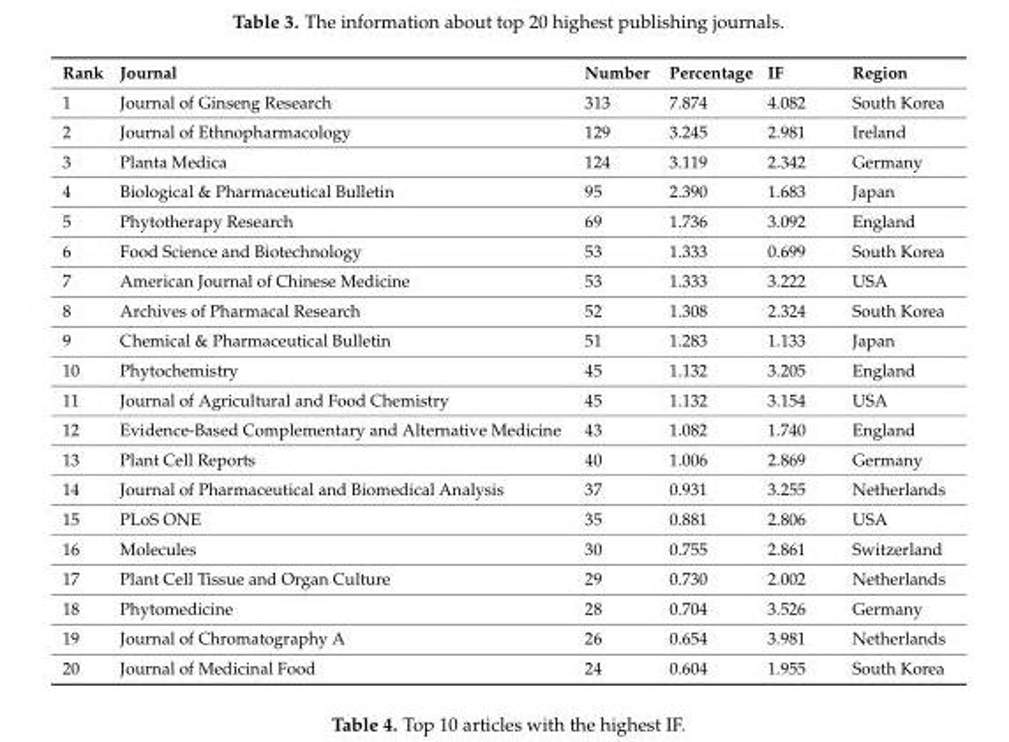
<table><thead><tr><td>Rank</td><td>Journal</td><td>Number</td><td>Percentage</td><td>IF</td><td>Region</td></tr></thead><tbody><tr><td>1</td><td>Journal of Ginseng Research</td><td>313</td><td>7.874</td><td>4.082</td><td>South Korea</td></tr><tr><td>2</td><td>Journal of Ethnopharmacology</td><td>129</td><td>3.245</td><td>2.981</td><td>Ireland</td></tr><tr><td>3</td><td>Planta Medica</td><td>124</td><td>3.119</td><td>2.342</td><td>Germany</td></tr><tr><td>4</td><td>Biological &amp; Pharmaceutical Bulletin</td><td>95</td><td>2.390</td><td>1.683</td><td>Japan</td></tr><tr><td>5</td><td>Phytotherapy Research</td><td>69</td><td>1.736</td><td>3.092</td><td>England</td></tr><tr><td>6</td><td>Food Science and Biotechnology</td><td>53</td><td>1.333</td><td>0.699</td><td>South Korea</td></tr><tr><td>7</td><td>American Journal of Chinese Medicine</td><td>53</td><td>1.333</td><td>3.222</td><td>USA</td></tr><tr><td>8</td><td>Archives of Pharmacal Research</td><td>52</td><td>1.308</td><td>2.324</td><td>South Korea</td></tr><tr><td>9</td><td>Chemical &amp; Pharmaceutical Bulletin</td><td>51</td><td>1.283</td><td>1.133</td><td>Japan</td></tr><tr><td>10</td><td>Phytochemistry</td><td>45</td><td>1.132</td><td>3.205</td><td>England</td></tr><tr><td>11</td><td>Journal of Agricultural and Food Chemistry</td><td>45</td><td>1.132</td><td>3.154</td><td>USA</td></tr><tr><td>12</td><td>Evidence-Based Complementary and Alternative Medicine</td><td>43</td><td>1.082</td><td>1.740</td><td>England</td></tr><tr><td>13</td><td>Plant Cell Reports</td><td>40</td><td>1.006</td><td>2.869</td><td>Germany</td></tr><tr><td>14</td><td>Journal of Pharmaceutical and Biomedical Analysis</td><td>37</td><td>0.931</td><td>3.255</td><td>Netherlands</td></tr><tr><td>15</td><td>PLoS ONE</td><td>35</td><td>0.881</td><td>2.806</td><td>USA</td></tr><tr><td>16</td><td>Molecules</td><td>30</td><td>0.755</td><td>2.861</td><td>Switzerland</td></tr><tr><td>17</td><td>Plant Cell Tissue and Organ Culture</td><td>29</td><td>0.730</td><td>2.002</td><td>Netherlands</td></tr><tr><td>18</td><td>Phytomedicine</td><td>28</td><td>0.704</td><td>3.526</td><td>Germany</td></tr><tr><td>19</td><td>Journal of Chromatography A</td><td>26</td><td>0.654</td><td>3.981</td><td>Netherlands</td></tr><tr><td>20</td><td>Journal of Medicinal Food</td><td>24</td><td>0.604</td><td>1.955</td><td>South Korea</td></tr></tbody></table>